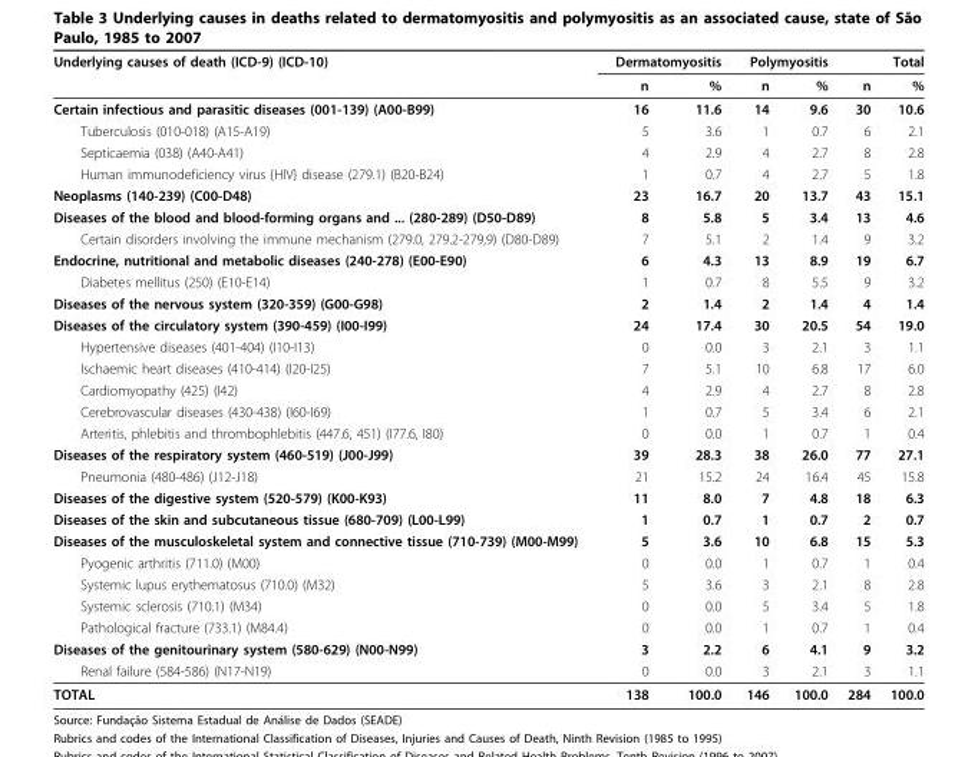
<table><thead><tr><td rowspan="2">Underlying causes of death (ICD-9) (ICD-10)</td><td colspan="2">Dermatomyositis</td><td colspan="2">Polymyositis</td><td colspan="2">Total</td></tr><tr><td>n</td><td>%</td><td>n</td><td>%</td><td>n</td><td>%</td></tr></thead><tbody><tr><td>Certain infectious and parasitic diseases (001-139) (A00-B99)</td><td>16</td><td>11.6</td><td>14</td><td>9.6</td><td>30</td><td>10.6</td></tr><tr><td>Tuberculosis (010-018) (A15-A19)</td><td>5</td><td>3.6</td><td>1</td><td>0.7</td><td>6</td><td>2.1</td></tr><tr><td>Septicaemia (038) (A40-A41)</td><td>4</td><td>2.9</td><td>4</td><td>2.7</td><td>8</td><td>2.8</td></tr><tr><td>Human immunodeficiency virus {HIV} disease (279.1) (B20-B24)</td><td>1</td><td>0.7</td><td>4</td><td>2.7</td><td>5</td><td>1.8</td></tr><tr><td>Neoplasms (140-239) (C00-D48)</td><td>23</td><td>16.7</td><td>20</td><td>13.7</td><td>43</td><td>15.1</td></tr><tr><td>Diseases of the blood and blood-forming organs and ... (280-289) (D50-D89)</td><td>8</td><td>5.8</td><td>5</td><td>3.4</td><td>13</td><td>4.6</td></tr><tr><td>Certain disorders involving the immune mechanism (279.0, 279.2-279,9) (D80-D89)</td><td>7</td><td>5.1</td><td>2</td><td>1.4</td><td>9</td><td>3.2</td></tr><tr><td>Endocrine, nutritional and metabolic diseases (240-278) (E00-E90)</td><td>6</td><td>4.3</td><td>13</td><td>8.9</td><td>19</td><td>6.7</td></tr><tr><td>Diabetes mellitus (250) (E10-E14)</td><td>1</td><td>0.7</td><td>8</td><td>5.5</td><td>9</td><td>3.2</td></tr><tr><td>Diseases of the nervous system (320-359) (G00-G98)</td><td>2</td><td>1.4</td><td>2</td><td>1.4</td><td>4</td><td>1.4</td></tr><tr><td>Diseases of the circulatory system (390-459) (I00-I99)</td><td>24</td><td>17.4</td><td>30</td><td>20.5</td><td>54</td><td>19.0</td></tr><tr><td>Hypertensive diseases (401-404) (I10-I13)</td><td>0</td><td>0.0</td><td>3</td><td>2.1</td><td>3</td><td>1.1</td></tr><tr><td>Ischaemic heart diseases (410-414) (I20-I25)</td><td>7</td><td>5.1</td><td>10</td><td>6.8</td><td>17</td><td>6.0</td></tr><tr><td>Cardiomyopathy (425) (I42)</td><td>4</td><td>2.9</td><td>4</td><td>2.7</td><td>8</td><td>2.8</td></tr><tr><td>Cerebrovascular diseases (430-438) (I60-I69)</td><td>1</td><td>0.7</td><td>5</td><td>3.4</td><td>6</td><td>2.1</td></tr><tr><td>Arteritis, phlebitis and thrombophlebitis (447.6, 451) (I77.6, I80)</td><td>0</td><td>0.0</td><td>1</td><td>0.7</td><td>1</td><td>0.4</td></tr><tr><td>Diseases of the respiratory system (460-519) (J00-J99)</td><td>39</td><td>28.3</td><td>38</td><td>26.0</td><td>77</td><td>27.1</td></tr><tr><td>Pneumonia (480-486) (J12-J18)</td><td>21</td><td>15.2</td><td>24</td><td>16.4</td><td>45</td><td>15.8</td></tr><tr><td>Diseases of the digestive system (520-579) (K00-K93)</td><td>11</td><td>8.0</td><td>7</td><td>4.8</td><td>18</td><td>6.3</td></tr><tr><td>Diseases of the skin and subcutaneous tissue (680-709) (L00-L99)</td><td>1</td><td>0.7</td><td>1</td><td>0.7</td><td>2</td><td>0.7</td></tr><tr><td>Diseases of the musculoskeletal system and connective tissue (710-739) (M00-M99)</td><td>5</td><td>3.6</td><td>10</td><td>6.8</td><td>15</td><td>5.3</td></tr><tr><td>Pyogenic arthritis (711.0) (M00)</td><td>0</td><td>0.0</td><td>1</td><td>0.7</td><td>1</td><td>0.4</td></tr><tr><td>Systemic lupus erythematosus (710.0) (M32)</td><td>5</td><td>3.6</td><td>3</td><td>2.1</td><td>8</td><td>2.8</td></tr><tr><td>Systemic sclerosis (710.1) (M34)</td><td>0</td><td>0.0</td><td>5</td><td>3.4</td><td>5</td><td>1.8</td></tr><tr><td>Pathological fracture (733.1) (M84.4)</td><td>0</td><td>0.0</td><td>1</td><td>0.7</td><td>1</td><td>0.4</td></tr><tr><td>Diseases of the genitourinary system (580-629) (N00-N99)</td><td>3</td><td>2.2</td><td>6</td><td>4.1</td><td>9</td><td>3.2</td></tr><tr><td>Renal failure (584-586) (N17-N19)</td><td>0</td><td>0.0</td><td>3</td><td>2.1</td><td>3</td><td>1.1</td></tr><tr><td>TOTAL</td><td>138</td><td>100.0</td><td>146</td><td>100.0</td><td>284</td><td>100.0</td></tr></tbody></table>